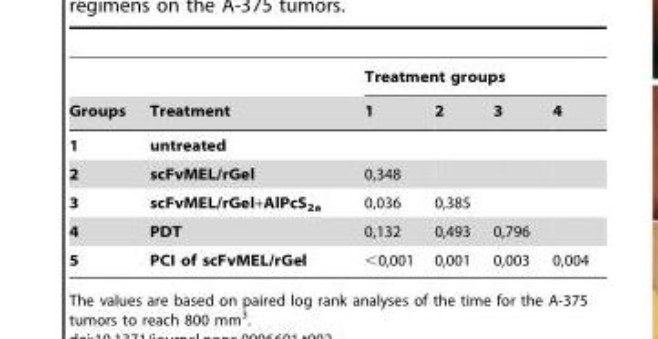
<table><thead><tr><td rowspan="2">Groups</td><td rowspan="2">Treatment</td><td colspan="4">Treatment groups</td></tr><tr><td>1</td><td>2</td><td>3</td><td>4</td></tr></thead><tbody><tr><td>1</td><td>untreated</td><td></td><td></td><td></td><td></td></tr><tr><td>2</td><td>scFvMEL/rGel</td><td>0,348</td><td></td><td></td><td></td></tr><tr><td>3</td><td>scFvMEL/rGel+AlPcS<sub>2a</sub></td><td>0,036</td><td>0,385</td><td></td><td></td></tr><tr><td>4</td><td>PDT</td><td>0,132</td><td>0,493</td><td>0,796</td><td></td></tr><tr><td>5</td><td>PCI of scFvMEL/rGel</td><td>&lt;0,001</td><td>0,001</td><td>0,003</td><td>0,004</td></tr></tbody></table>